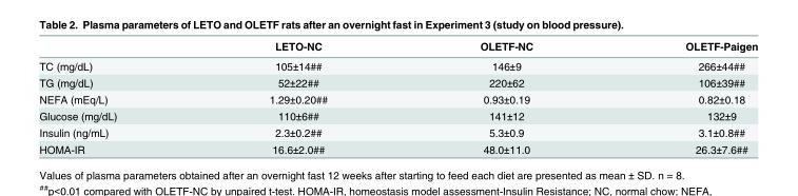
<table><thead><tr><td></td><td>LETO-NC</td><td>OLETF-NC</td><td>OLETF-Paigen</td></tr></thead><tbody><tr><td>TC (mg/dL)</td><td>105±14##</td><td>146±9</td><td>266±44##</td></tr><tr><td>TG (mg/dL)</td><td>52±22##</td><td>220±62</td><td>106±39##</td></tr><tr><td>NEFA (mEq/L)</td><td>1.29±0.20##</td><td>0.93±0.19</td><td>0.82±0.18</td></tr><tr><td>Glucose (mg/dL)</td><td>110±6##</td><td>141±12</td><td>132±9</td></tr><tr><td>Insulin (ng/mL)</td><td>2.3±0.2##</td><td>5.3±0.9</td><td>3.1±0.8##</td></tr><tr><td>HOMA-IR</td><td>16.6±2.0##</td><td>48.0±11.0</td><td>26.3±7.6##</td></tr></tbody></table>